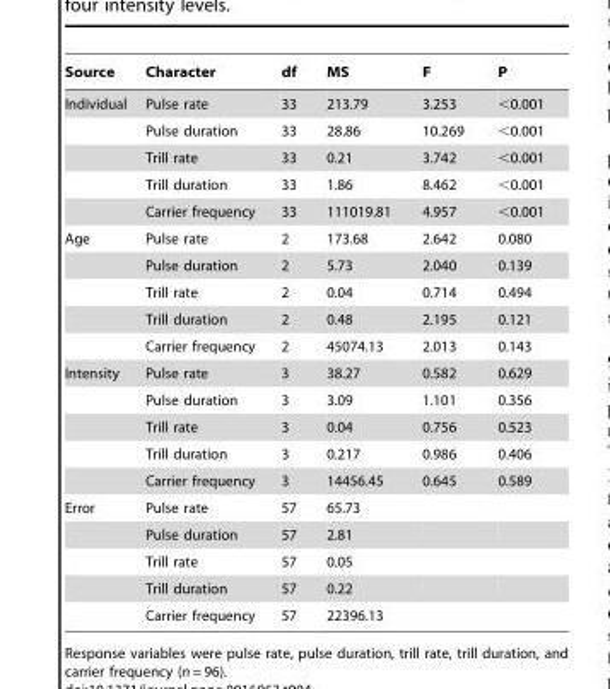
<table><thead><tr><td>Source</td><td>Character</td><td>df</td><td>MS</td><td>F</td><td>P</td></tr></thead><tbody><tr><td rowspan="5">Individual</td><td>Pulse rate</td><td>33</td><td>213.79</td><td>3.253</td><td>&lt;0.001</td></tr><tr><td>Pulse duration</td><td>33</td><td>28.86</td><td>10.269</td><td>&lt;0.001</td></tr><tr><td>Trill rate</td><td>33</td><td>0.21</td><td>3.742</td><td>&lt;0.001</td></tr><tr><td>Trill duration</td><td>33</td><td>1.86</td><td>8.462</td><td>&lt;0.001</td></tr><tr><td>Carrier frequency</td><td>33</td><td>111019.81</td><td>4.957</td><td>&lt;0.001</td></tr><tr><td rowspan="5">Age</td><td>Pulse rate</td><td>2</td><td>173.68</td><td>2.642</td><td>0.080</td></tr><tr><td>Pulse duration</td><td>2</td><td>5.73</td><td>2.040</td><td>0.139</td></tr><tr><td>Trill rate</td><td>2</td><td>0.04</td><td>0.714</td><td>0.494</td></tr><tr><td>Trill duration</td><td>2</td><td>0.48</td><td>2.195</td><td>0.121</td></tr><tr><td>Carrier frequency</td><td>2</td><td>45074.13</td><td>2.013</td><td>0.143</td></tr><tr><td rowspan="5">Intensity</td><td>Pulse rate</td><td>3</td><td>38.27</td><td>0.582</td><td>0.629</td></tr><tr><td>Pulse duration</td><td>3</td><td>3.09</td><td>1.101</td><td>0.356</td></tr><tr><td>Trill rate</td><td>3</td><td>0.04</td><td>0.756</td><td>0.523</td></tr><tr><td>Trill duration</td><td>3</td><td>0.217</td><td>0.986</td><td>0.406</td></tr><tr><td>Carrier frequency</td><td>3</td><td>14456.45</td><td>0.645</td><td>0.589</td></tr><tr><td rowspan="5">Error</td><td>Pulse rate</td><td>57</td><td>65.73</td><td></td><td></td></tr><tr><td>Pulse duration</td><td>57</td><td>2.81</td><td></td><td></td></tr><tr><td>Trill rate</td><td>57</td><td>0.05</td><td></td><td></td></tr><tr><td>Trill duration</td><td>57</td><td>0.22</td><td></td><td></td></tr><tr><td>Carrier frequency</td><td>57</td><td>22396.13</td><td></td><td></td></tr></tbody></table>